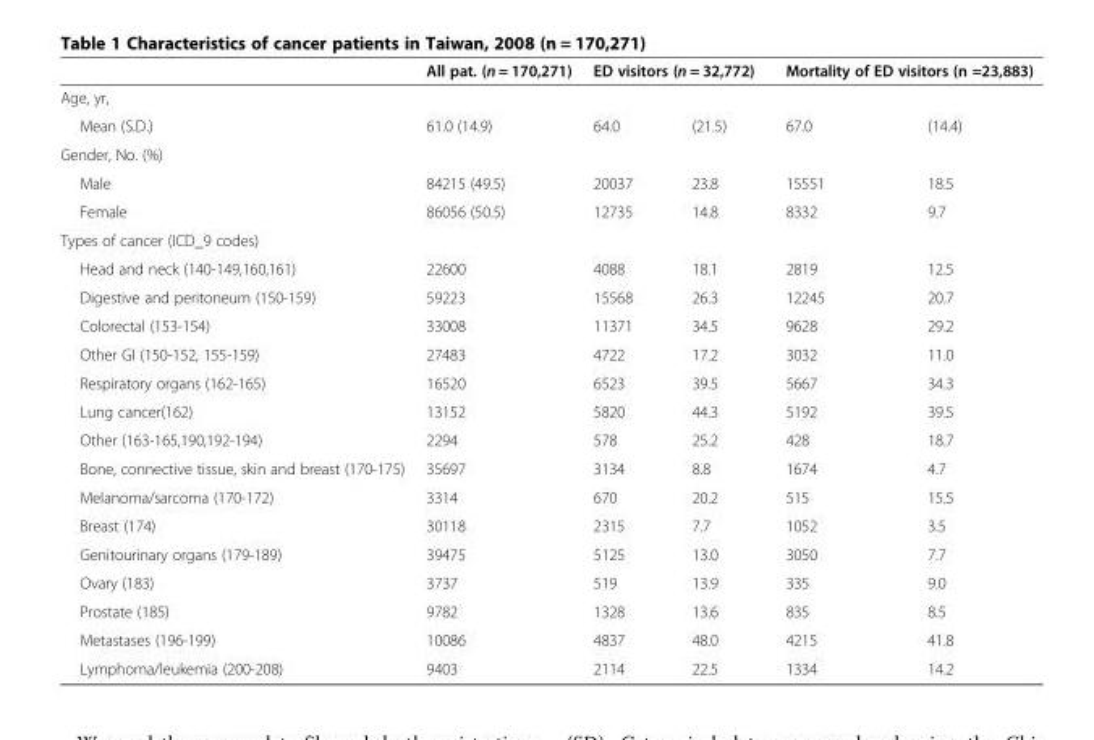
<table><thead><tr><td rowspan="2">Age, yr,</td><td rowspan="2">All pat. (n = 170,271)</td><td colspan="2">ED visitors (n = 32,772)</td><td colspan="2">Mortality of ED visitors (n =23,883)</td></tr><tr><td></td><td></td><td></td><td></td></tr></thead><tbody><tr><td>Mean (S.D.)</td><td>61.0 (14.9)</td><td>64.0</td><td>(21.5)</td><td>67.0</td><td>(14.4)</td></tr><tr><td colspan="6">Gender, No. (%)</td></tr><tr><td>Male</td><td>84215 (49.5)</td><td>20037</td><td>23.8</td><td>15551</td><td>18.5</td></tr><tr><td>Female</td><td>86056 (50.5)</td><td>12735</td><td>14.8</td><td>8332</td><td>9.7</td></tr><tr><td colspan="6">Types of cancer (ICD_9 codes)</td></tr><tr><td>Head and neck (140-149,160,161)</td><td>22600</td><td>4088</td><td>18.1</td><td>2819</td><td>12.5</td></tr><tr><td>Digestive and peritoneum (150-159)</td><td>59223</td><td>15568</td><td>26.3</td><td>12245</td><td>20.7</td></tr><tr><td>Colorectal (153-154)</td><td>33008</td><td>11371</td><td>34.5</td><td>9628</td><td>29.2</td></tr><tr><td>Other GI (150-152, 155-159)</td><td>27483</td><td>4722</td><td>17.2</td><td>3032</td><td>11.0</td></tr><tr><td>Respiratory organs (162-165)</td><td>16520</td><td>6523</td><td>39.5</td><td>5667</td><td>34.3</td></tr><tr><td>Lung cancer(162)</td><td>13152</td><td>5820</td><td>44.3</td><td>5192</td><td>39.5</td></tr><tr><td>Other (163-165,190,192-194)</td><td>2294</td><td>578</td><td>25.2</td><td>428</td><td>18.7</td></tr><tr><td>Bone, connective tissue, skin and breast (170-175)</td><td>35697</td><td>3134</td><td>8.8</td><td>1674</td><td>4.7</td></tr><tr><td>Melanoma/sarcoma (170-172)</td><td>3314</td><td>670</td><td>20.2</td><td>515</td><td>15.5</td></tr><tr><td>Breast (174)</td><td>30118</td><td>2315</td><td>7.7</td><td>1052</td><td>3.5</td></tr><tr><td>Genitourinary organs (179-189)</td><td>39475</td><td>5125</td><td>13.0</td><td>3050</td><td>7.7</td></tr><tr><td>Ovary (183)</td><td>3737</td><td>519</td><td>13.9</td><td>335</td><td>9.0</td></tr><tr><td>Prostate (185)</td><td>9782</td><td>1328</td><td>13.6</td><td>835</td><td>8.5</td></tr><tr><td>Metastases (196-199)</td><td>10086</td><td>4837</td><td>48.0</td><td>4215</td><td>41.8</td></tr><tr><td>Lymphoma/leukemia (200-208)</td><td>9403</td><td>2114</td><td>22.5</td><td>1334</td><td>14.2</td></tr></tbody></table>